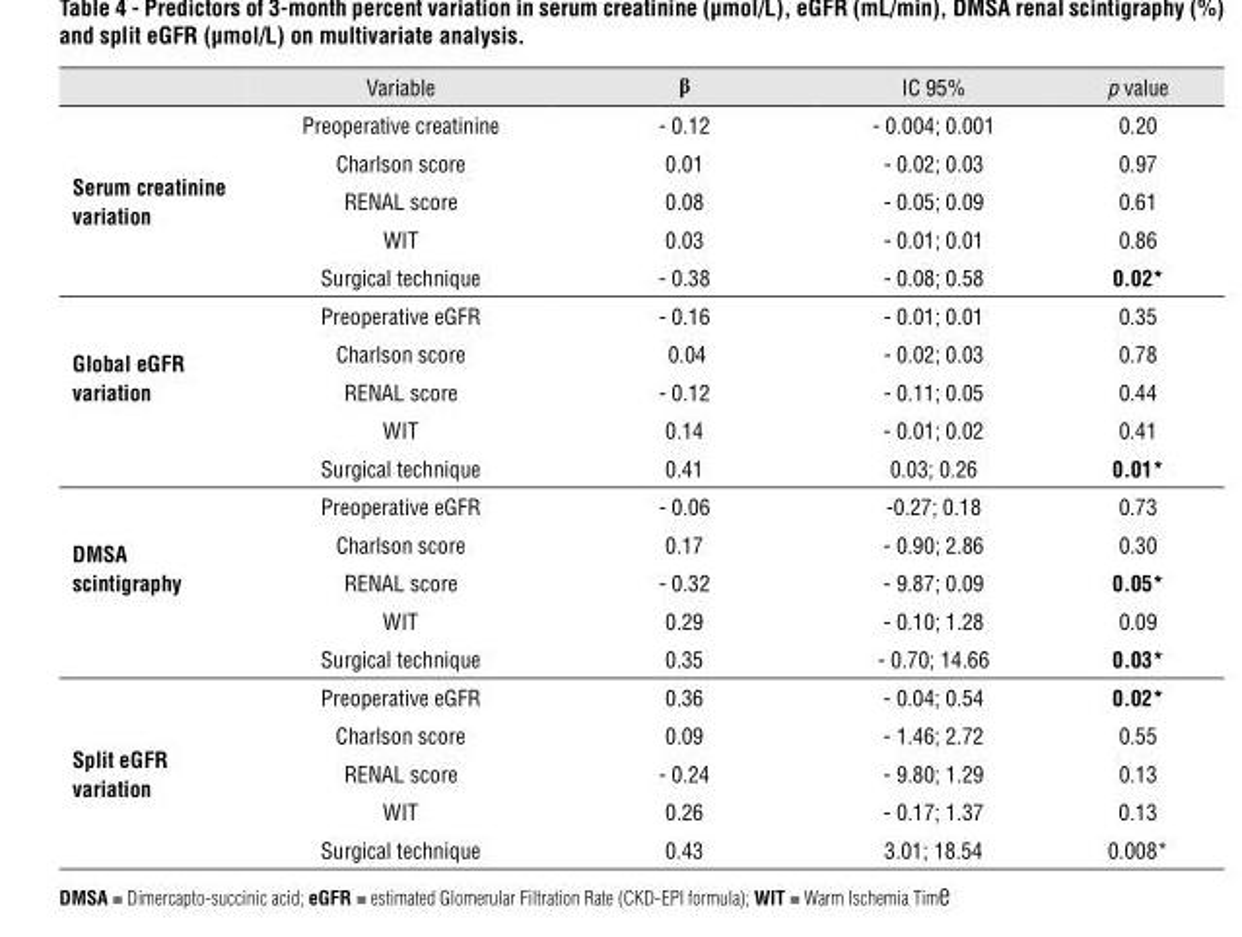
<table><thead><tr><td></td><td>Variable</td><td>β</td><td>IC 95%</td><td>p value</td></tr></thead><tbody><tr><td rowspan="5">serum creatinine variation</td><td>Preoperative creatinine</td><td>- 0.12</td><td>- 0.004; 0.001</td><td>0.20</td></tr><tr><td>Charlson score</td><td>0.01</td><td>- 0.02; 0.03</td><td>0.97</td></tr><tr><td>RENAL score</td><td>0.08</td><td>- 0.05; 0.09</td><td>0.61</td></tr><tr><td>WIT</td><td>0.03</td><td>- 0.01; 0.01</td><td>0.86</td></tr><tr><td>Surgical technique</td><td>- 0.38</td><td>- 0.08; 0.58</td><td>0.02*</td></tr><tr><td rowspan="5">Global eGFR variation</td><td>Preoperative eGFR</td><td>- 0.16</td><td>- 0.01; 0.01</td><td>0.35</td></tr><tr><td>Charlson score</td><td>0.04</td><td>- 0.02; 0.03</td><td>0.78</td></tr><tr><td>RENAL score</td><td>- 0.12</td><td>- 0.11; 0.05</td><td>0.44</td></tr><tr><td>WIT</td><td>0.14</td><td>- 0.01; 0.02</td><td>0.41</td></tr><tr><td>Surgical technique</td><td>0.41</td><td>0.03; 0.26</td><td>0.01*</td></tr><tr><td rowspan="5">DMsA scintigraphy</td><td>Preoperative eGFR</td><td>- 0.06</td><td>-0.27; 0.18</td><td>0.73</td></tr><tr><td>Charlson score</td><td>0.17</td><td>- 0.90; 2.86</td><td>0.30</td></tr><tr><td>RENAL score</td><td>- 0.32</td><td>- 9.87; 0.09</td><td>0.05*</td></tr><tr><td>WIT</td><td>0.29</td><td>- 0.10; 1.28</td><td>0.09</td></tr><tr><td>Surgical technique</td><td>0.35</td><td>- 0.70; 14.66</td><td>0.03*</td></tr><tr><td rowspan="5">split eGFR variation</td><td>Preoperative eGFR</td><td>0.36</td><td>- 0.04; 0.54</td><td>0.02*</td></tr><tr><td>Charlson score</td><td>0.09</td><td>- 1.46; 2.72</td><td>0.55</td></tr><tr><td>RENAL score</td><td>- 0.24</td><td>- 9.80; 1.29</td><td>0.13</td></tr><tr><td>WIT</td><td>0.26</td><td>- 0.17; 1.37</td><td>0.13</td></tr><tr><td>Surgical technique</td><td>0.43</td><td>3.01; 18.54</td><td>0.008*</td></tr></tbody></table>